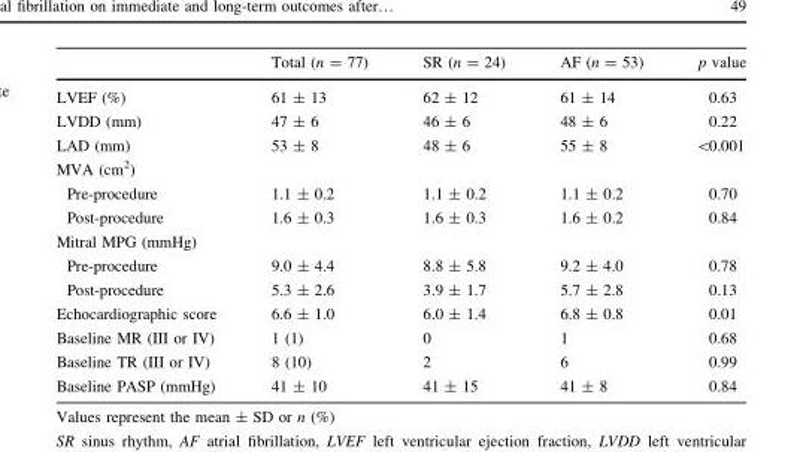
<table><thead><tr><td></td><td>Total (n = 77)</td><td>SR (n = 24)</td><td>AF (n = 53)</td><td>p value</td></tr></thead><tbody><tr><td>LVEF (%)</td><td>61 ± 13</td><td>62 ± 12</td><td>61 ± 14</td><td>0.63</td></tr><tr><td>LVDD (mm)</td><td>47 ± 6</td><td>46 ± 6</td><td>48 ± 6</td><td>0.22</td></tr><tr><td>LAD (mm)</td><td>53 ± 8</td><td>48 ± 6</td><td>55 ± 8</td><td>&lt;0.001</td></tr><tr><td colspan="5">MVA (cm<sup>2</sup>)</td></tr><tr><td>Pre-procedure</td><td>1.1 ± 0.2</td><td>1.1 ± 0.2</td><td>1.1 ± 0.2</td><td>0.70</td></tr><tr><td>Post-procedure</td><td>1.6 ± 0.3</td><td>1.6 ± 0.3</td><td>1.6 ± 0.2</td><td>0.84</td></tr><tr><td colspan="5">Mitral MPG (mmHg)</td></tr><tr><td>Pre-procedure</td><td>9.0 ± 4.4</td><td>8.8 ± 5.8</td><td>9.2 ± 4.0</td><td>0.78</td></tr><tr><td>Post-procedure</td><td>5.3 ± 2.6</td><td>3.9 ± 1.7</td><td>5.7 ± 2.8</td><td>0.13</td></tr><tr><td>Echocardiographic score</td><td>6.6 ± 1.0</td><td>6.0 ± 1.4</td><td>6.8 ± 0.8</td><td>0.01</td></tr><tr><td>Baseline MR (III or IV)</td><td>1 (1)</td><td>0</td><td>1</td><td>0.68</td></tr><tr><td>Baseline TR (III or IV)</td><td>8 (10)</td><td>2</td><td>6</td><td>0.99</td></tr><tr><td>Baseline PASP (mmHg)</td><td>41 ± 10</td><td>41 ± 15</td><td>41 ± 8</td><td>0.84</td></tr></tbody></table>